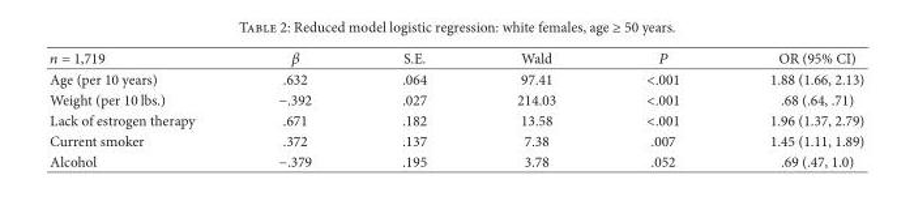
<table><thead><tr><td>𝑛𝑛 𝑛 1,719</td><td>𝛽𝛽</td><td>S.E.</td><td>Wald</td><td>𝑃𝑃</td><td>OR (95% CI)</td></tr></thead><tbody><tr><td>Age (per 10 years)</td><td>.632</td><td>.064</td><td>97.41</td><td>&lt;.001</td><td>1.88 (1.66, 2.13)</td></tr><tr><td>Weight (per 10 lbs.)</td><td>−.392</td><td>.027</td><td>214.03</td><td>&lt;.001</td><td>.68 (.64, .71)</td></tr><tr><td>Lack of estrogen therapy</td><td>.671</td><td>.182</td><td>13.58</td><td>&lt;.001</td><td>1.96 (1.37, 2.79)</td></tr><tr><td>Current smoker</td><td>.372</td><td>.137</td><td>7.38</td><td>.007</td><td>1.45 (1.11, 1.89)</td></tr><tr><td>Alcohol</td><td>−.379</td><td>.195</td><td>3.78</td><td>.052</td><td>.69 (.47, 1.0)</td></tr></tbody></table>